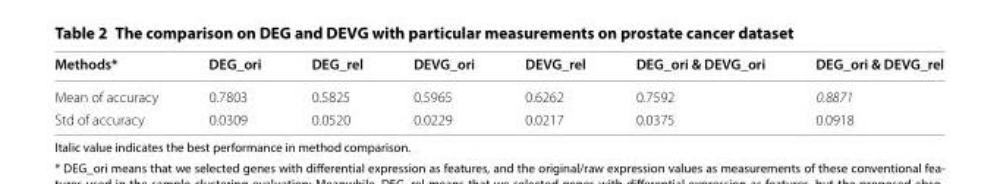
<table><thead><tr><td>Methods*</td><td>DEG_ori</td><td>DEG_rel</td><td>DEVG_ori</td><td>DEVG_rel</td><td>DEG_ori &amp; DEVG_ori</td><td>DEG_ori &amp; DEVG_rel</td></tr></thead><tbody><tr><td>Mean of accuracy</td><td>0.7803</td><td>0.5825</td><td>0.5965</td><td>0.6262</td><td>0.7592</td><td>0.8871</td></tr><tr><td>Std of accuracy</td><td>0.0309</td><td>0.0520</td><td>0.0229</td><td>0.0217</td><td>0.0375</td><td>0.0918</td></tr></tbody></table>